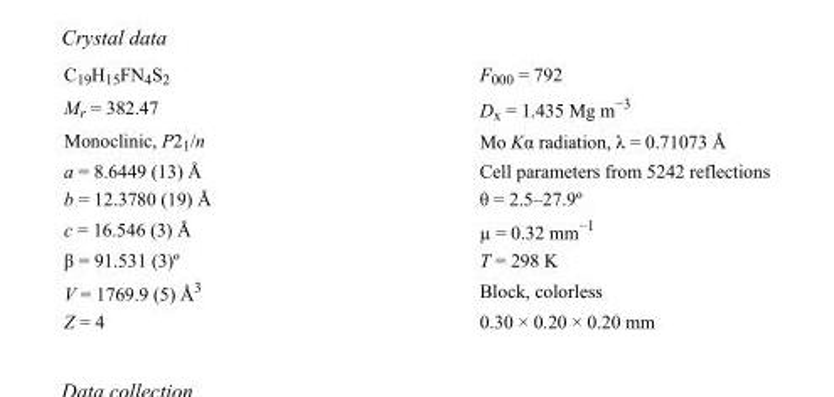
<table><tbody><tr><td>C<sub>19</sub>H<sub>15</sub>FN<sub>4</sub>S<sub>2</sub></td><td>F000 = 792</td></tr><tr><td>M<sub>r</sub> = 382.47</td><td>D<sub>x</sub> = 1.435 Mg m<sup>−3</sup></td></tr><tr><td>Monoclinic, P2<sub>1</sub>/n</td><td>Mo Kα radiation, λ = 0.71073 Å</td></tr><tr><td>a = 8.6449 (13) Å</td><td>Cell parameters from 5242 reflections</td></tr><tr><td>b = 12.3780 (19) Å</td><td>θ = 2.5–27.9º</td></tr><tr><td>c = 16.546 (3) Å</td><td>µ = 0.32 mm<sup>−1</sup></td></tr><tr><td>β = 91.531 (3)º</td><td>T = 298 K</td></tr><tr><td>V = 1769.9 (5) Å<sup>3</sup></td><td>Block, colorless</td></tr><tr><td>Z = 4</td><td>0.30 × 0.20 × 0.20 mm</td></tr></tbody></table>